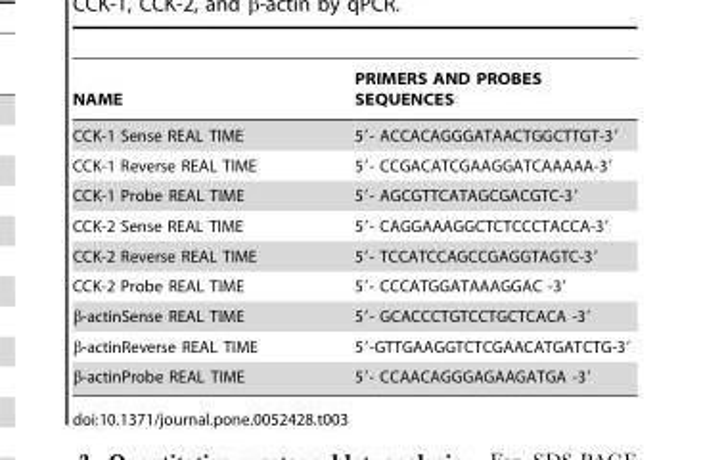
<table><thead><tr><td>NAME</td><td>PRIMERS AND PROBES SEQUENCES</td></tr></thead><tbody><tr><td>CCK-1 Sense REAL TIME</td><td>5′- ACCACAGGGATAACTGGCTTGT-3′</td></tr><tr><td>CCK-1 Reverse REAL TIME</td><td>5′- CCGACATCGAAGGATCAAAAA-3′</td></tr><tr><td>CCK-1 Probe REAL TIME</td><td>5′- AGCGTTCATAGCGACGTC-3′</td></tr><tr><td>CCK-2 Sense REAL TIME</td><td>5′- CAGGAAAGGCTCTCCCTACCA-3′</td></tr><tr><td>CCK-2 Reverse REAL TIME</td><td>5′- TCCATCCAGCCGAGGTAGTC-3′</td></tr><tr><td>CCK-2 Probe REAL TIME</td><td>5′- CCCATGGATAAAGGAC -3′</td></tr><tr><td>β-actinSense REAL TIME</td><td>5′- GCACCCTGTCCTGCTCACA -3′</td></tr><tr><td>β-actinReverse REAL TIME</td><td>5′-GTTGAAGGTCTCGAACATGATCTG-3′</td></tr><tr><td>β-actinProbe REAL TIME</td><td>5′- CCAACAGGGAGAAGATGA -3′</td></tr></tbody></table>